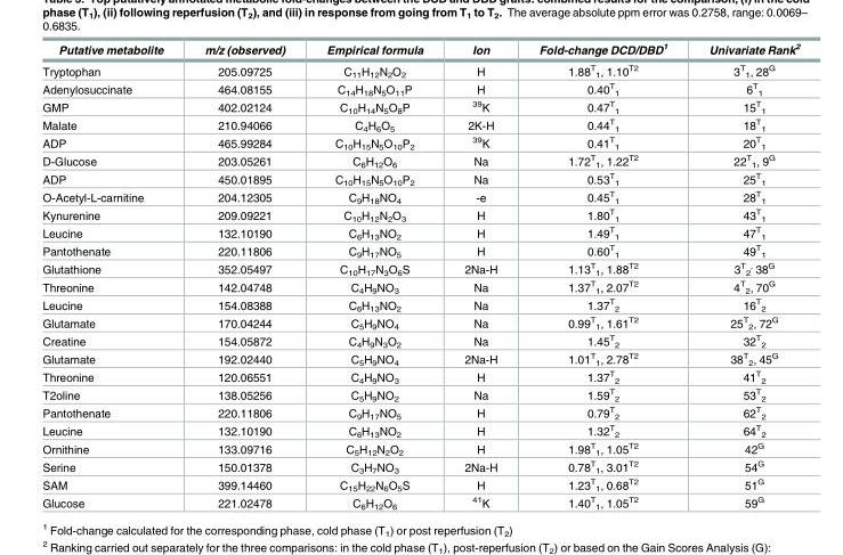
<table><thead><tr><td>Putative metabolite</td><td>m/z (observed)</td><td>Empirical formula</td><td>Ion</td><td>Fold-change DCD/DBD<sup>1</sup></td><td>Univariate Rank<sup>2</sup></td></tr></thead><tbody><tr><td>Tryptophan</td><td>205.09725</td><td>C<sub>11</sub>H<sub>12</sub>N<sub>2</sub>O<sub>2</sub></td><td>H</td><td>1.88<sup>T</sup> <sub>1</sub>, 1.10<sup>T2</sup></td><td>3<sup>T</sup> <sub>1</sub>, 28<sup>G</sup></td></tr><tr><td>Adenylosuccinate</td><td>464.08155</td><td>C<sub>14</sub>H<sub>18</sub>N<sub>5</sub>O<sub>11</sub>P</td><td>H</td><td>0.40<sup>T</sup> <sub>1</sub></td><td>6<sup>T</sup> <sub>1</sub></td></tr><tr><td>GMP</td><td>402.02124</td><td>C<sub>10</sub>H<sub>14</sub>N<sub>5</sub>O<sub>8</sub>P</td><td><sup>39</sup>K</td><td>0.47<sup>T</sup> <sub>1</sub></td><td>15<sup>T</sup> <sub>1</sub></td></tr><tr><td>Malate</td><td>210.94066</td><td>C<sub>4</sub>H<sub>6</sub>O<sub>5</sub></td><td>2K-H</td><td>0.44<sup>T</sup> <sub>1</sub></td><td>18<sup>T</sup> <sub>1</sub></td></tr><tr><td>ADP</td><td>465.99284</td><td>C<sub>10</sub>H<sub>15</sub>N<sub>5</sub>O<sub>10</sub>P<sub>2</sub></td><td><sup>39</sup>K</td><td>0.41<sup>T</sup> <sub>1</sub></td><td>20<sup>T</sup> <sub>1</sub></td></tr><tr><td>D-Glucose</td><td>203.05261</td><td>C<sub>6</sub>H<sub>12</sub>O<sub>6</sub></td><td>Na</td><td>1.72<sup>T</sup> <sub>1</sub>, 1.22<sup>T2</sup></td><td>22<sup>T</sup> <sub>1</sub>, 9<sup>G</sup></td></tr><tr><td>ADP</td><td>450.01895</td><td>C<sub>10</sub>H<sub>15</sub>N<sub>5</sub>O<sub>10</sub>P<sub>2</sub></td><td>Na</td><td>0.53<sup>T</sup> <sub>1</sub></td><td>25<sup>T</sup> <sub>1</sub></td></tr><tr><td>O-Acetyl-L-carnitine</td><td>204.12305</td><td>C<sub>9</sub>H<sub>18</sub>NO<sub>4</sub></td><td>-e</td><td>0.45<sup>T</sup> <sub>1</sub></td><td>28<sup>T</sup> <sub>1</sub></td></tr><tr><td>Kynurenine</td><td>209.09221</td><td>C<sub>10</sub>H<sub>12</sub>N<sub>2</sub>O<sub>3</sub></td><td>H</td><td>1.80<sup>T</sup> <sub>1</sub></td><td>43<sup>T</sup> <sub>1</sub></td></tr><tr><td>Leucine</td><td>132.10190</td><td>C<sub>6</sub>H<sub>13</sub>NO<sub>2</sub></td><td>H</td><td>1.49<sup>T</sup> <sub>1</sub></td><td>47<sup>T</sup> <sub>1</sub></td></tr><tr><td>Pantothenate</td><td>220.11806</td><td>C<sub>9</sub>H<sub>17</sub>NO<sub>5</sub></td><td>H</td><td>0.60<sup>T</sup> <sub>1</sub></td><td>49<sup>T</sup> <sub>1</sub></td></tr><tr><td>Glutathione</td><td>352.05497</td><td>C<sub>10</sub>H<sub>17</sub>N<sub>3</sub>O<sub>6</sub>S</td><td>2Na-H</td><td>1.13<sup>T</sup> <sub>1</sub>, 1.88<sup>T2</sup></td><td>3<sup>T</sup> <sub>2</sub> <sup>,</sup> 38<sup>G</sup></td></tr><tr><td>Threonine</td><td>142.04748</td><td>C<sub>4</sub>H<sub>9</sub>NO<sub>3</sub></td><td>Na</td><td>1.37<sup>T</sup> <sub>1</sub>, 2.07<sup>T2</sup></td><td>4<sup>T</sup> <sub>2</sub>, 70<sup>G</sup></td></tr><tr><td>Leucine</td><td>154.08388</td><td>C<sub>6</sub>H<sub>13</sub>NO<sub>2</sub></td><td>Na</td><td>1.37<sup>T</sup> <sub>2</sub></td><td>16<sup>T</sup> <sub>2</sub></td></tr><tr><td>Glutamate</td><td>170.04244</td><td>C<sub>5</sub>H<sub>9</sub>NO<sub>4</sub></td><td>Na</td><td>0.99<sup>T</sup> <sub>1</sub>, 1.61<sup>T2</sup></td><td>25<sup>T</sup> <sub>2</sub>, 72<sup>G</sup></td></tr><tr><td>Creatine</td><td>154.05872</td><td>C<sub>4</sub>H<sub>9</sub>N<sub>3</sub>O<sub>2</sub></td><td>Na</td><td>1.45<sup>T</sup> <sub>2</sub></td><td>32<sup>T</sup> <sub>2</sub></td></tr><tr><td>Glutamate</td><td>192.02440</td><td>C<sub>5</sub>H<sub>9</sub>NO<sub>4</sub></td><td>2Na-H</td><td>1.01<sup>T</sup> <sub>1</sub>, 2.78<sup>T2</sup></td><td>38<sup>T</sup> <sub>2</sub>, 45<sup>G</sup></td></tr><tr><td>Threonine</td><td>120.06551</td><td>C<sub>4</sub>H<sub>9</sub>NO<sub>3</sub></td><td>H</td><td>1.37<sup>T</sup> <sub>2</sub></td><td>41<sup>T</sup> <sub>2</sub></td></tr><tr><td>T2oline</td><td>138.05256</td><td>C<sub>5</sub>H<sub>9</sub>NO<sub>2</sub></td><td>Na</td><td>1.59<sup>T</sup> <sub>2</sub></td><td>53<sup>T</sup> <sub>2</sub></td></tr><tr><td>Pantothenate</td><td>220.11806</td><td>C<sub>9</sub>H<sub>17</sub>NO<sub>5</sub></td><td>H</td><td>0.79<sup>T</sup> <sub>2</sub></td><td>62<sup>T</sup> <sub>2</sub></td></tr><tr><td>Leucine</td><td>132.10190</td><td>C<sub>6</sub>H<sub>13</sub>NO<sub>2</sub></td><td>H</td><td>1.32<sup>T</sup> <sub>2</sub></td><td>64<sup>T</sup> <sub>2</sub></td></tr><tr><td>Ornithine</td><td>133.09716</td><td>C<sub>5</sub>H<sub>12</sub>N<sub>2</sub>O<sub>2</sub></td><td>H</td><td>1.98<sup>T</sup> <sub>1</sub>, 1.05<sup>T2</sup></td><td>42<sup>G</sup></td></tr><tr><td>Serine</td><td>150.01378</td><td>C<sub>3</sub>H<sub>7</sub>NO<sub>3</sub></td><td>2Na-H</td><td>0.78<sup>T</sup> <sub>1</sub>, 3.01<sup>T2</sup></td><td>54<sup>G</sup></td></tr><tr><td>SAM</td><td>399.14460</td><td>C<sub>15</sub>H<sub>22</sub>N<sub>6</sub>O<sub>5</sub>S</td><td>H</td><td>1.23<sup>T</sup> <sub>1</sub>, 0.68<sup>T2</sup></td><td>51<sup>G</sup></td></tr><tr><td>Glucose</td><td>221.02478</td><td>C<sub>6</sub>H<sub>12</sub>O<sub>6</sub></td><td><sup>41</sup>K</td><td>1.40<sup>T</sup> <sub>1</sub>, 1.05<sup>T2</sup></td><td>59<sup>G</sup></td></tr></tbody></table>